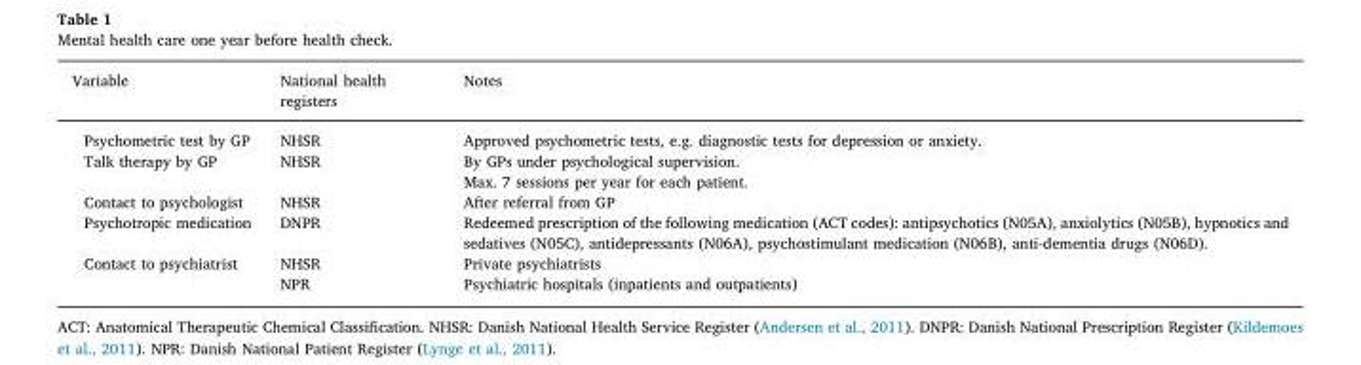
<table><thead><tr><td>Variable</td><td>National health registers</td><td>Notes</td></tr></thead><tbody><tr><td>Psychometric test by GP</td><td>NHSR</td><td>Approved psychometric tests, e.g. diagnostic tests for depression or anxiety.</td></tr><tr><td>Talk therapy by GP</td><td>NHSR</td><td>By GPs under psychological supervision. Max. 7 sessions per year for each patient.</td></tr><tr><td>Contact to psychologist</td><td>NHSR</td><td>After referral from GP</td></tr><tr><td>Psychotropic medication</td><td>DNPR</td><td>Redeemed prescription of the following medication (ACT codes): antipsychotics (N05A), anxiolytics (N05B), hypnotics and sedatives (N05C), antidepressants (N06A), psychostimulant medication (N06B), anti-dementia drugs (N06D).</td></tr><tr><td>Contact to psychiatrist</td><td>NHSR NPR</td><td>Private psychiatrists Psychiatric hospitals (inpatients and outpatients)</td></tr></tbody></table>